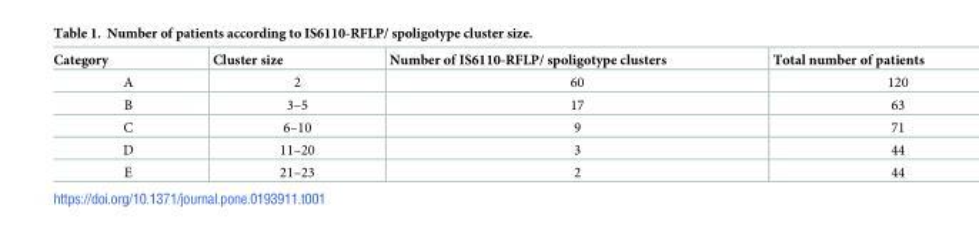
<table><thead><tr><td>Category</td><td>Cluster size</td><td>Number of IS6110-RFLP/ spoligotype clusters</td><td>Total number of patients</td></tr></thead><tbody><tr><td>A</td><td>2</td><td>60</td><td>120</td></tr><tr><td>B</td><td>3–5</td><td>17</td><td>63</td></tr><tr><td>C</td><td>6–10</td><td>9</td><td>71</td></tr><tr><td>D</td><td>11–20</td><td>3</td><td>44</td></tr><tr><td>E</td><td>21–23</td><td>2</td><td>44</td></tr></tbody></table>